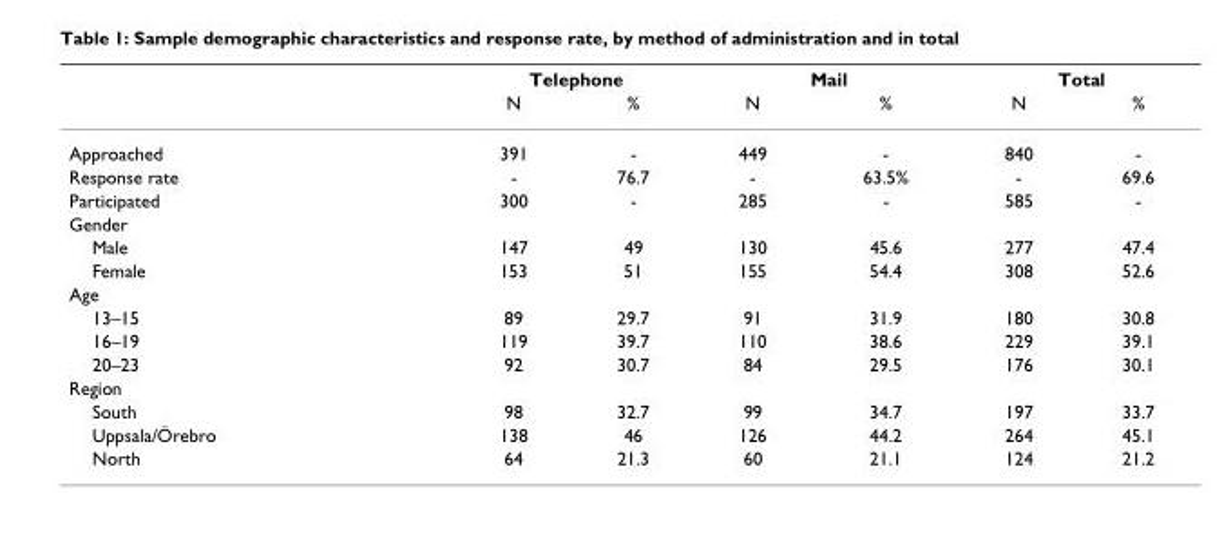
<table><thead><tr><td rowspan="2"></td><td colspan="2">Telephone</td><td colspan="2">Mail</td><td colspan="2">Total</td></tr><tr><td>N</td><td>%</td><td>N</td><td>%</td><td>N</td><td>%</td></tr></thead><tbody><tr><td>Approached</td><td>391</td><td>-</td><td>449</td><td>-</td><td>840</td><td>-</td></tr><tr><td>Response rate</td><td>-</td><td>76.7</td><td>-</td><td>63.5%</td><td>-</td><td>69.6</td></tr><tr><td>Participated</td><td>300</td><td>-</td><td>285</td><td>-</td><td>585</td><td>-</td></tr><tr><td colspan="7">Gender</td></tr><tr><td>Male</td><td>147</td><td>49</td><td>130</td><td>45.6</td><td>277</td><td>47.4</td></tr><tr><td>Female</td><td>153</td><td>51</td><td>155</td><td>54.4</td><td>308</td><td>52.6</td></tr><tr><td colspan="7">Age</td></tr><tr><td>13–15</td><td>89</td><td>29.7</td><td>91</td><td>31.9</td><td>180</td><td>30.8</td></tr><tr><td>16–19</td><td>119</td><td>39.7</td><td>110</td><td>38.6</td><td>229</td><td>39.1</td></tr><tr><td>20–23</td><td>92</td><td>30.7</td><td>84</td><td>29.5</td><td>176</td><td>30.1</td></tr><tr><td colspan="7">Region</td></tr><tr><td>South</td><td>98</td><td>32.7</td><td>99</td><td>34.7</td><td>197</td><td>33.7</td></tr><tr><td>Uppsala/Örebro</td><td>138</td><td>46</td><td>126</td><td>44.2</td><td>264</td><td>45.1</td></tr><tr><td>North</td><td>64</td><td>21.3</td><td>60</td><td>21.1</td><td>124</td><td>21.2</td></tr></tbody></table>